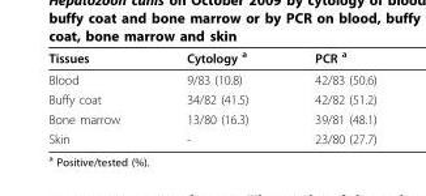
<table><thead><tr><td>Tissues</td><td>Cytology <sup>a</sup></td><td>PCR <sup>a</sup></td></tr></thead><tbody><tr><td>Blood</td><td>9/83 (10.8)</td><td>42/83 (50.6)</td></tr><tr><td>Buffy coat</td><td>34/82 (41.5)</td><td>42/82 (51.2)</td></tr><tr><td>Bone marrow</td><td>13/80 (16.3)</td><td>39/81 (48.1)</td></tr><tr><td>Skin</td><td>-</td><td>23/80 (27.7)</td></tr></tbody></table>